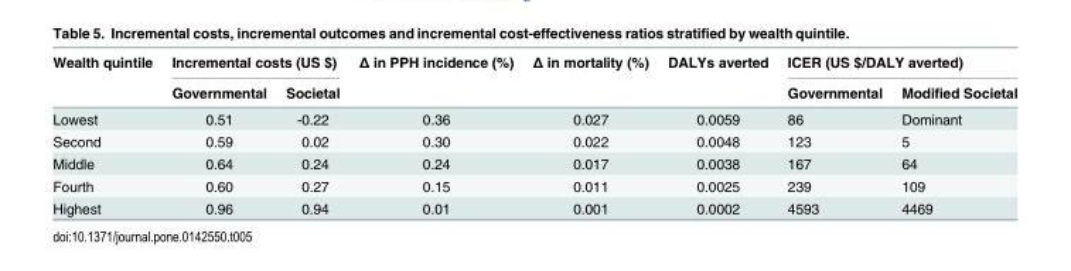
<table><thead><tr><td rowspan="2">Wealth quintile</td><td colspan="2">Incremental costs (US $)</td><td rowspan="2">Δ in PPH incidence (%)</td><td rowspan="2">Δ in mortality (%)</td><td rowspan="2">DALYs averted</td><td colspan="2">ICER (US $/DALY averted)</td></tr><tr><td>Governmental</td><td>Societal</td><td>Governmental</td><td>Modified Societal</td></tr></thead><tbody><tr><td>Lowest</td><td>0.51</td><td>-0.22</td><td>0.36</td><td>0.027</td><td>0.0059</td><td>86</td><td>Dominant</td></tr><tr><td>Second</td><td>0.59</td><td>0.02</td><td>0.30</td><td>0.022</td><td>0.0048</td><td>123</td><td>5</td></tr><tr><td>Middle</td><td>0.64</td><td>0.24</td><td>0.24</td><td>0.017</td><td>0.0038</td><td>167</td><td>64</td></tr><tr><td>Fourth</td><td>0.60</td><td>0.27</td><td>0.15</td><td>0.011</td><td>0.0025</td><td>239</td><td>109</td></tr><tr><td>Highest</td><td>0.96</td><td>0.94</td><td>0.01</td><td>0.001</td><td>0.0002</td><td>4593</td><td>4469</td></tr></tbody></table>